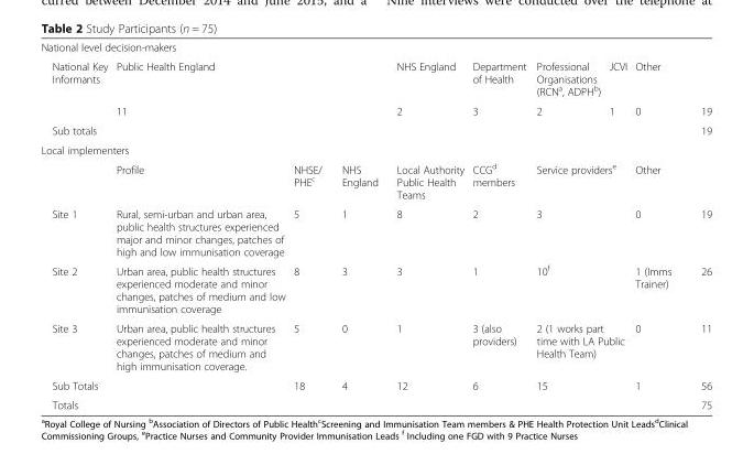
<table><tbody><tr><td colspan="10">National level decision-makers</td></tr><tr><td rowspan="2">National Key Informants</td><td colspan="3">Public Health England</td><td>NHS England</td><td>Department of Health</td><td>Professional Organisations (RCN<sup>a</sup>, ADPH<sup>b</sup>)</td><td>JCVI</td><td>Other</td><td></td></tr><tr><td colspan="3">11</td><td>2</td><td>3</td><td>2</td><td>1</td><td>0</td><td>19</td></tr><tr><td>Sub totals</td><td colspan="8"></td><td>19</td></tr><tr><td colspan="10">Local implementers</td></tr><tr><td></td><td>Profile</td><td>NHSE/ PHE<sup>c</sup></td><td>NHS England</td><td>Local Authority Public Health Teams</td><td>CCG<sup>d</sup> members</td><td colspan="2">Service providers<sup>e</sup></td><td>Other</td><td></td></tr><tr><td>Site 1</td><td>Rural, semi-urban and urban area, public health structures experienced major and minor changes, patches of high and low immunisation coverage</td><td>5</td><td>1</td><td>8</td><td>2</td><td colspan="2">3</td><td>0</td><td>19</td></tr><tr><td>Site 2</td><td>Urban area, public health structures experienced moderate and minor changes, patches of medium and low immunisation coverage</td><td>8</td><td>3</td><td>3</td><td>1</td><td colspan="2">10<sup>f</sup></td><td>1 (Imms Trainer)</td><td>26</td></tr><tr><td>Site 3</td><td>Urban area, public health structures experienced moderate and minor changes, patches of medium and high immunisation coverage.</td><td>5</td><td>0</td><td>1</td><td>3 (also providers)</td><td colspan="2">2 (1 works part time with LA Public Health Team)</td><td>0</td><td>11</td></tr><tr><td>Sub Totals</td><td></td><td>18</td><td>4</td><td>12</td><td>6</td><td>15</td><td></td><td>1</td><td>56</td></tr><tr><td>Totals</td><td colspan="6"></td><td colspan="2"></td><td>75</td></tr></tbody></table>